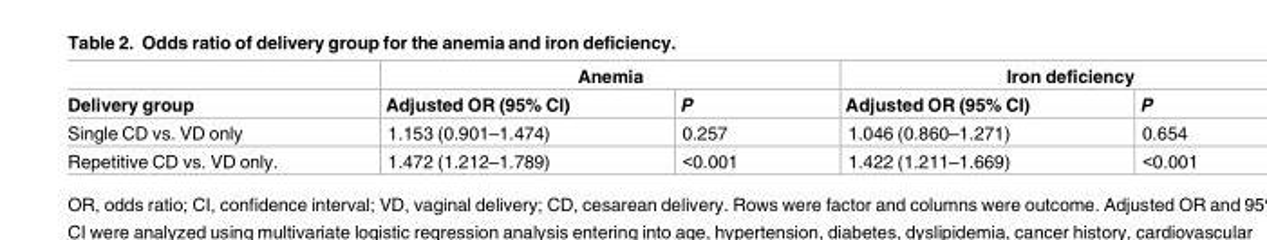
<table><thead><tr><td rowspan="2">Delivery group</td><td colspan="2">Anemia</td><td colspan="2">Iron deficiency</td></tr><tr><td>Adjusted OR (95% CI)</td><td>P</td><td>Adjusted OR (95% CI)</td><td>P</td></tr></thead><tbody><tr><td>Single CD vs. VD only</td><td>1.153 (0.901–1.474)</td><td>0.257</td><td>1.046 (0.860–1.271)</td><td>0.654</td></tr><tr><td>Repetitive CD vs. VD only.</td><td>1.472 (1.212–1.789)</td><td>&lt;0.001</td><td>1.422 (1.211–1.669)</td><td>&lt;0.001</td></tr></tbody></table>